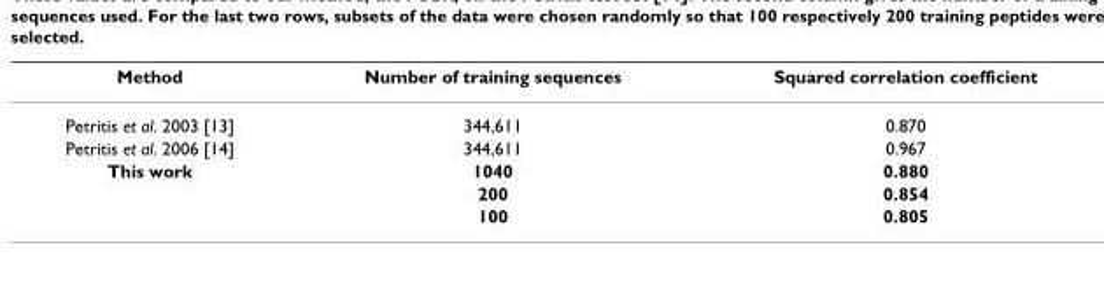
<table><thead><tr><td>Method</td><td>Number of training sequences</td><td>Squared correlation coefficient</td></tr></thead><tbody><tr><td>Petritis et al. 2003 [13]</td><td>344,611</td><td>0.870</td></tr><tr><td>Petritis et al. 2006 [14]</td><td>344,611</td><td>0.967</td></tr><tr><td rowspan="3">This work</td><td>1040</td><td>0.880</td></tr><tr><td>200</td><td>0.854</td></tr><tr><td>100</td><td>0.805</td></tr></tbody></table>